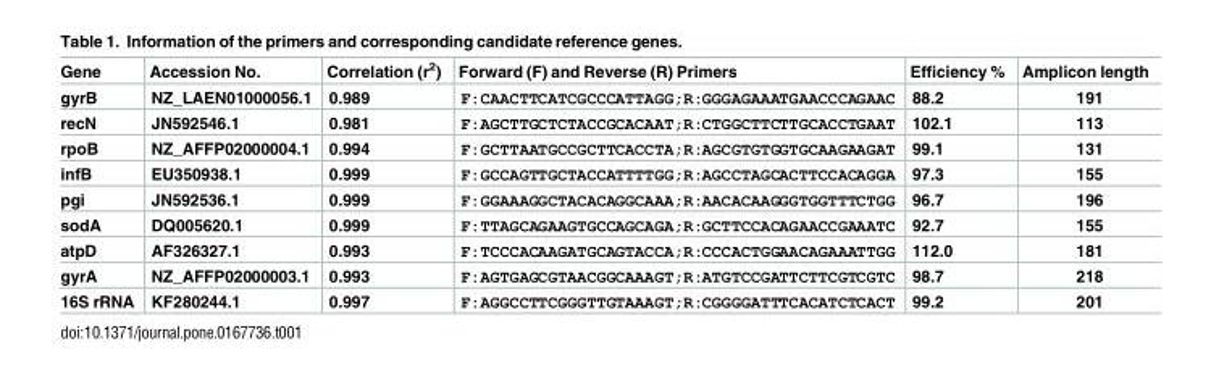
<table><thead><tr><td>Gene</td><td>Accession No.</td><td>Correlation (r<sup>2</sup>)</td><td>Forward (F) and Reverse (R) Primers</td><td>Efficiency %</td><td>Amplicon length</td></tr></thead><tbody><tr><td>gyrB</td><td>NZ_LAEN01000056.1</td><td>0.989</td><td>F:CAACTTCATCGCCCATTAGG;R:GGGAGAAATGAACCCAGAAC</td><td>88.2</td><td>191</td></tr><tr><td>recN</td><td>JN592546.1</td><td>0.981</td><td>F:AGCTTGCTCTACCGCACAAT;R:CTGGCTTCTTGCACCTGAAT</td><td>102.1</td><td>113</td></tr><tr><td>rpoB</td><td>NZ_AFFP02000004.1</td><td>0.994</td><td>F:GCTTAATGCCGCTTCACCTA;R:AGCGTGTGGTGCAAGAAGAT</td><td>99.1</td><td>131</td></tr><tr><td>infB</td><td>EU350938.1</td><td>0.999</td><td>F:GCCAGTTGCTACCATTTTGG;R:AGCCTAGCACTTCCACAGGA</td><td>97.3</td><td>155</td></tr><tr><td>pgi</td><td>JN592536.1</td><td>0.999</td><td>F:GGAAAGGCTACACAGGCAAA;R:AACACAAGGGTGGTTTCTGG</td><td>96.7</td><td>196</td></tr><tr><td>sodA</td><td>DQ005620.1</td><td>0.999</td><td>F:TTAGCAGAAGTGCCAGCAGA;R:GCTTCCACAGAACCGAAATC</td><td>92.7</td><td>155</td></tr><tr><td>atpD</td><td>AF326327.1</td><td>0.993</td><td>F:TCCCACAAGATGCAGTACCA;R:CCCACTGGAACAGAAATTGG</td><td>112.0</td><td>181</td></tr><tr><td>gyrA</td><td>NZ_AFFP02000003.1</td><td>0.993</td><td>F:AGTGAGCGTAACGGCAAAGT;R:ATGTCCGATTCTTCGTCGTC</td><td>98.7</td><td>218</td></tr><tr><td>16S rRNA</td><td>KF280244.1</td><td>0.997</td><td>F:AGGCCTTCGGGTTGTAAAGT;R:CGGGGATTTCACATCTCACT</td><td>99.2</td><td>201</td></tr></tbody></table>